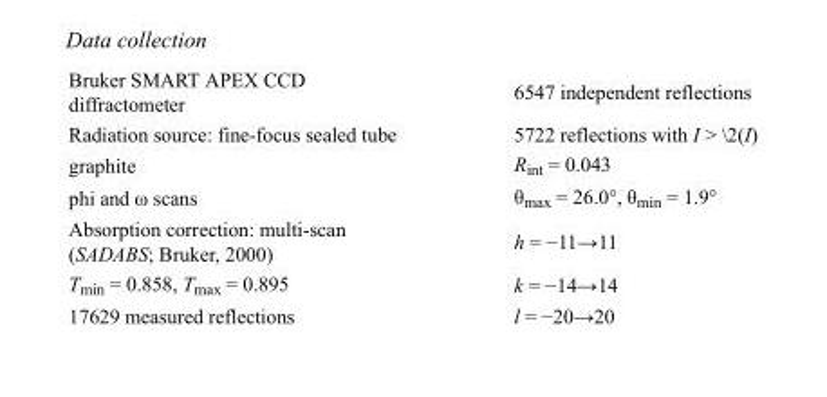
<table><tbody><tr><td>Bruker SMART APEX CCD diffractometer</td><td>6547 independent reflections</td></tr><tr><td>Radiation source: fine-focus sealed tube</td><td>5722 reflections with I &gt; \2(I)</td></tr><tr><td>graphite</td><td>R<sub>int</sub> = 0.043</td></tr><tr><td>phi and ω scans</td><td>θ<sub>max</sub> = 26.0°, θ<sub>min</sub> = 1.9°</td></tr><tr><td>Absorption correction: multi-scan (SADABS; Bruker, 2000)</td><td>h = −11→11</td></tr><tr><td>T<sub>min</sub> = 0.858, T<sub>max</sub> = 0.895</td><td>k = −14→14</td></tr><tr><td>17629 measured reflections</td><td>l = −20→20</td></tr></tbody></table>